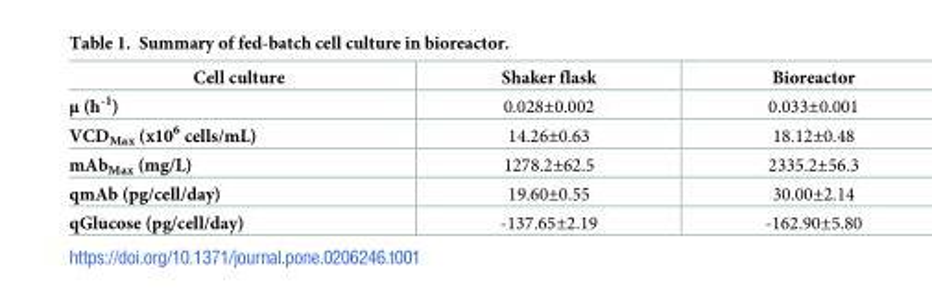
<table><thead><tr><td>Cell culture</td><td>Shaker flask</td><td>Bioreactor</td></tr></thead><tbody><tr><td>μ (h<sup>-1</sup>)</td><td>0.028±0.002</td><td>0.033±0.001</td></tr><tr><td>VCD<sub>Max</sub> (x10<sup>6</sup> cells/mL)</td><td>14.26±0.63</td><td>18.12±0.48</td></tr><tr><td>mAb<sub>Max</sub> (mg/L)</td><td>1278.2±62.5</td><td>2335.2±56.3</td></tr><tr><td>qmAb (pg/cell/day)</td><td>19.60±0.55</td><td>30.00±2.14</td></tr><tr><td>qGlucose (pg/cell/day)</td><td>-137.65±2.19</td><td>-162.90±5.80</td></tr></tbody></table>